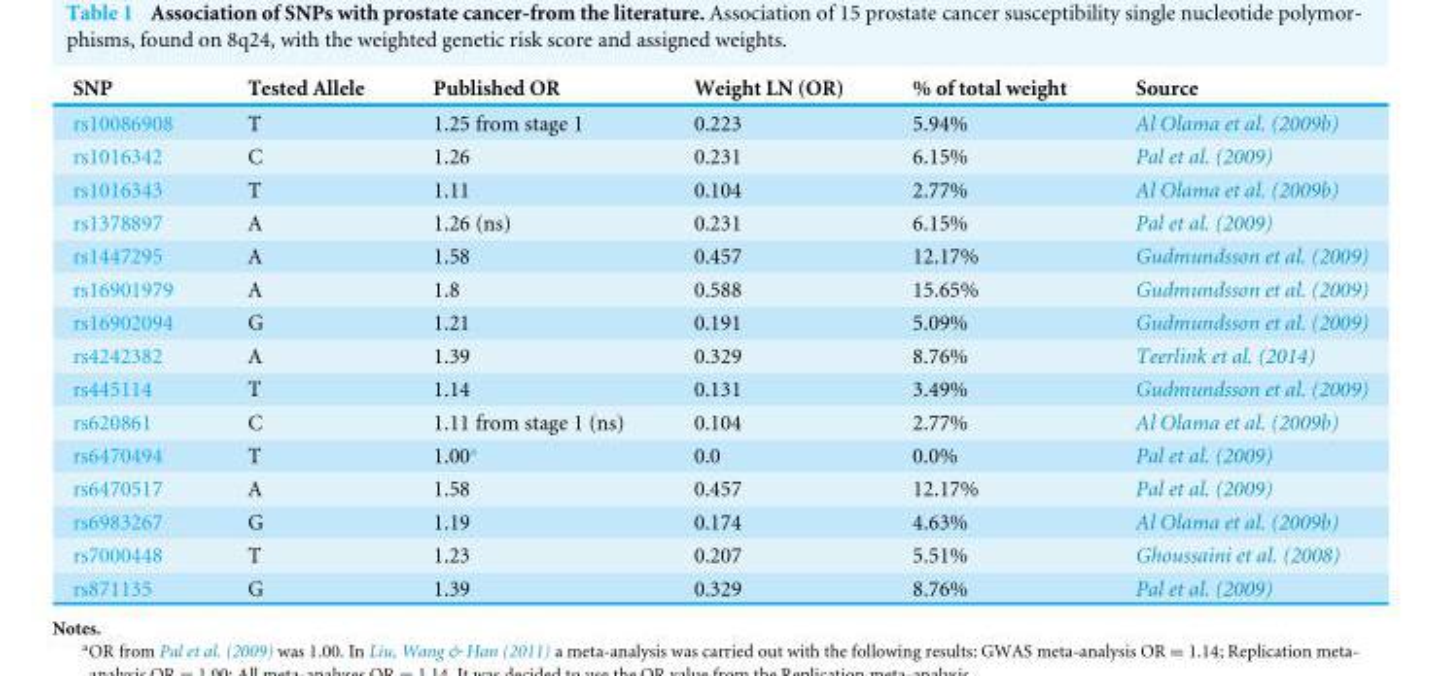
<table><thead><tr><td>SNP</td><td>Tested Allele</td><td>Published OR</td><td>Weight LN (OR)</td><td>% of total weight</td><td>Source</td></tr></thead><tbody><tr><td>rs10086908</td><td>T</td><td>1.25 from stage 1</td><td>0.223</td><td>5.94%</td><td>Al Olama et al. (2009b)</td></tr><tr><td>rs1016342</td><td>C</td><td>1.26</td><td>0.231</td><td>6.15%</td><td>Pal et al. (2009)</td></tr><tr><td>rs1016343</td><td>T</td><td>1.11</td><td>0.104</td><td>2.77%</td><td>Al Olama et al. (2009b)</td></tr><tr><td>rs1378897</td><td>A</td><td>1.26 (ns)</td><td>0.231</td><td>6.15%</td><td>Pal et al. (2009)</td></tr><tr><td>rs1447295</td><td>A</td><td>1.58</td><td>0.457</td><td>12.17%</td><td>Gudmundsson et al. (2009)</td></tr><tr><td>rs16901979</td><td>A</td><td>1.8</td><td>0.588</td><td>15.65%</td><td>Gudmundsson et al. (2009)</td></tr><tr><td>rs16902094</td><td>G</td><td>1.21</td><td>0.191</td><td>5.09%</td><td>Gudmundsson et al. (2009)</td></tr><tr><td>rs4242382</td><td>A</td><td>1.39</td><td>0.329</td><td>8.76%</td><td>Teerlink et al. (2014)</td></tr><tr><td>rs445114</td><td>T</td><td>1.14</td><td>0.131</td><td>3.49%</td><td>Gudmundsson et al. (2009)</td></tr><tr><td>rs620861</td><td>C</td><td>1.11 from stage 1 (ns)</td><td>0.104</td><td>2.77%</td><td>Al Olama et al. (2009b)</td></tr><tr><td>rs6470494</td><td>T</td><td>1.00<sup>a</sup></td><td>0.0</td><td>0.0%</td><td>Pal et al. (2009)</td></tr><tr><td>rs6470517</td><td>A</td><td>1.58</td><td>0.457</td><td>12.17%</td><td>Pal et al. (2009)</td></tr><tr><td>rs6983267</td><td>G</td><td>1.19</td><td>0.174</td><td>4.63%</td><td>Al Olama et al. (2009b)</td></tr><tr><td>rs7000448</td><td>T</td><td>1.23</td><td>0.207</td><td>5.51%</td><td>Ghoussaini et al. (2008)</td></tr><tr><td>rs871135</td><td>G</td><td>1.39</td><td>0.329</td><td>8.76%</td><td>Pal et al. (2009)</td></tr></tbody></table>